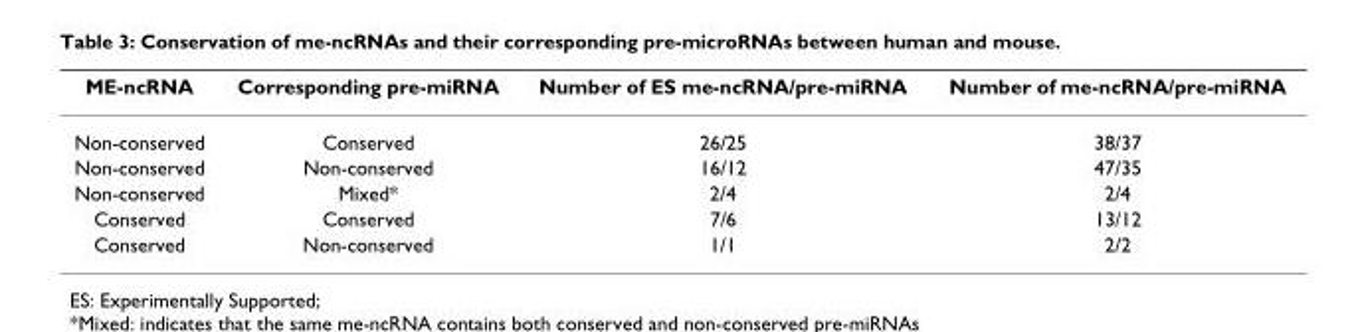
<table><thead><tr><td>ME-ncRNA</td><td>Corresponding pre-miRNA</td><td>Number of ES me-ncRNA/pre-miRNA</td><td>Number of me-ncRNA/pre-miRNA</td></tr></thead><tbody><tr><td>Non-conserved</td><td>Conserved</td><td>26/25</td><td>38/37</td></tr><tr><td>Non-conserved</td><td>Non-conserved</td><td>16/12</td><td>47/35</td></tr><tr><td>Non-conserved</td><td>Mixed*</td><td>2/4</td><td>2/4</td></tr><tr><td>Conserved</td><td>Conserved</td><td>7/6</td><td>13/12</td></tr><tr><td>Conserved</td><td>Non-conserved</td><td>1/1</td><td>2/2</td></tr></tbody></table>